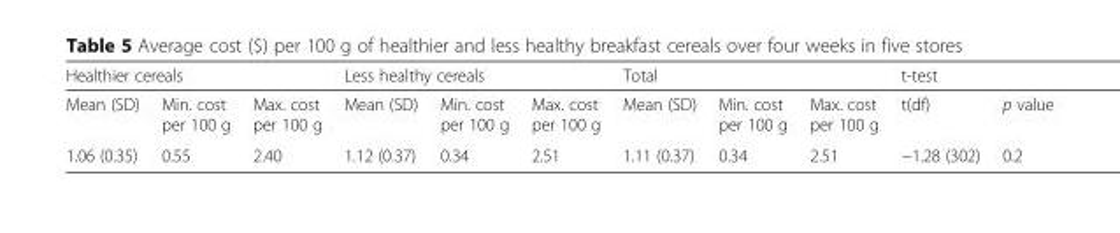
<table><thead><tr><td colspan="3">Healthier cereals</td><td colspan="3">Less healthy cereals</td><td colspan="3">Total</td><td colspan="2">t-test</td></tr><tr><td>Mean (SD)</td><td>Min. cost per 100 g</td><td>Max. cost per 100 g</td><td>Mean (SD)</td><td>Min. cost per 100 g</td><td>Max. cost per 100 g</td><td>Mean (SD)</td><td>Min. cost per 100 g</td><td>Max. cost per 100 g</td><td>t(df)</td><td>p value</td></tr></thead><tbody><tr><td>1.06 (0.35)</td><td>0.55</td><td>2.40</td><td>1.12 (0.37)</td><td>0.34</td><td>2.51</td><td>1.11 (0.37)</td><td>0.34</td><td>2.51</td><td>−1.28 (302)</td><td>0.2</td></tr></tbody></table>